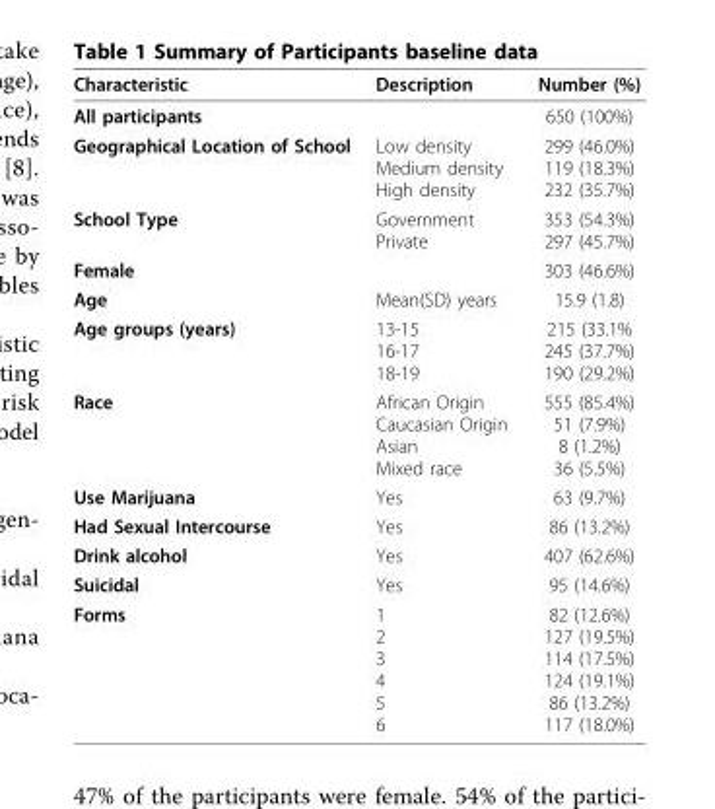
<table><thead><tr><td>Characteristic</td><td>Description</td><td>Number (%)</td></tr></thead><tbody><tr><td>All participants</td><td></td><td>650 (100%)</td></tr><tr><td>Geographical Location of School</td><td>Low density Medium density High density</td><td>299 (46.0%) 119 (18.3%) 232 (35.7%)</td></tr><tr><td>School Type</td><td>Government Private</td><td>353 (54.3%) 297 (45.7%)</td></tr><tr><td>Female</td><td></td><td>303 (46.6%)</td></tr><tr><td>Age</td><td>Mean(SD) years</td><td>15.9 (1.8)</td></tr><tr><td>Age groups (years)</td><td>13-15 16-17 18-19</td><td>215 (33.1% 245 (37.7%) 190 (29.2%)</td></tr><tr><td>Race</td><td>African Origin Caucasian Origin Asian Mixed race</td><td>555 (85.4%) 51 (7.9%) 8 (1.2%) 36 (5.5%)</td></tr><tr><td>Use Marijuana</td><td>Yes</td><td>63 (9.7%)</td></tr><tr><td>Had Sexual Intercourse</td><td>Yes</td><td>86 (13.2%)</td></tr><tr><td>Drink alcohol</td><td>Yes</td><td>407 (62.6%)</td></tr><tr><td>Suicidal</td><td>Yes</td><td>95 (14.6%)</td></tr><tr><td>Forms</td><td>1 2 3 4 5 6</td><td>82 (12.6%) 127 (19.5%) 114 (17.5%) 124 (19.1%) 86 (13.2%) 117 (18.0%)</td></tr></tbody></table>